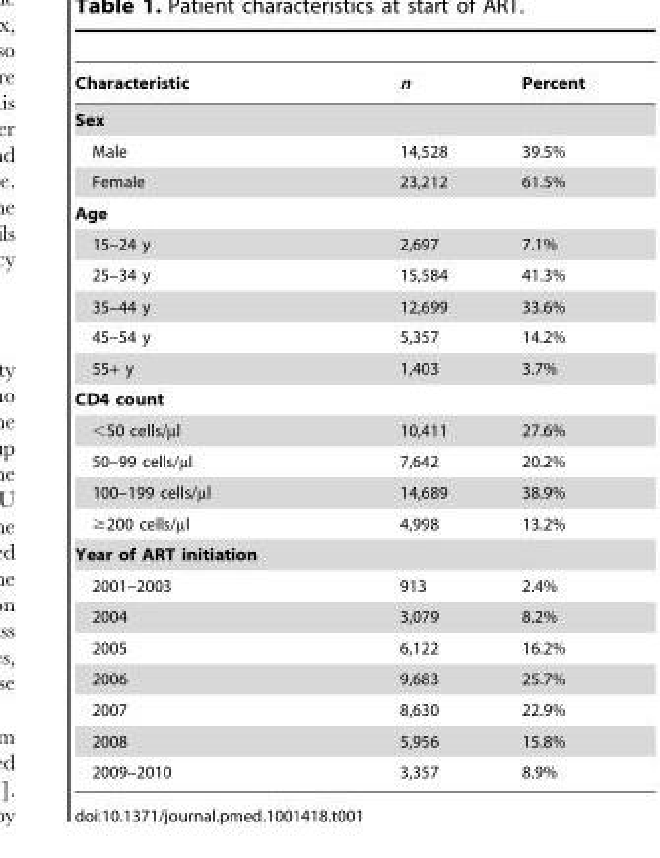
<table><thead><tr><td>Characteristic</td><td>n</td><td>Percent</td></tr></thead><tbody><tr><td colspan="3">Sex</td></tr><tr><td>Male</td><td>14,528</td><td>39.5%</td></tr><tr><td>Female</td><td>23,212</td><td>61.5%</td></tr><tr><td colspan="3">Age</td></tr><tr><td>15–24 y</td><td>2,697</td><td>7.1%</td></tr><tr><td>25–34 y</td><td>15,584</td><td>41.3%</td></tr><tr><td>35–44 y</td><td>12,699</td><td>33.6%</td></tr><tr><td>45–54 y</td><td>5,357</td><td>14.2%</td></tr><tr><td>55+ y</td><td>1,403</td><td>3.7%</td></tr><tr><td colspan="3">CD4 count</td></tr><tr><td>&lt;50 cells/µl</td><td>10,411</td><td>27.6%</td></tr><tr><td>50–99 cells/µl</td><td>7,642</td><td>20.2%</td></tr><tr><td>100–199 cells/µl</td><td>14,689</td><td>38.9%</td></tr><tr><td>≥200 cells/µl</td><td>4,998</td><td>13.2%</td></tr><tr><td colspan="3">Year of ART initiation</td></tr><tr><td>2001–2003</td><td>913</td><td>2.4%</td></tr><tr><td>2004</td><td>3,079</td><td>8.2%</td></tr><tr><td>2005</td><td>6,122</td><td>16.2%</td></tr><tr><td>2006</td><td>9,683</td><td>25.7%</td></tr><tr><td>2007</td><td>8,630</td><td>22.9%</td></tr><tr><td>2008</td><td>5,956</td><td>15.8%</td></tr><tr><td>2009–2010</td><td>3,357</td><td>8.9%</td></tr></tbody></table>